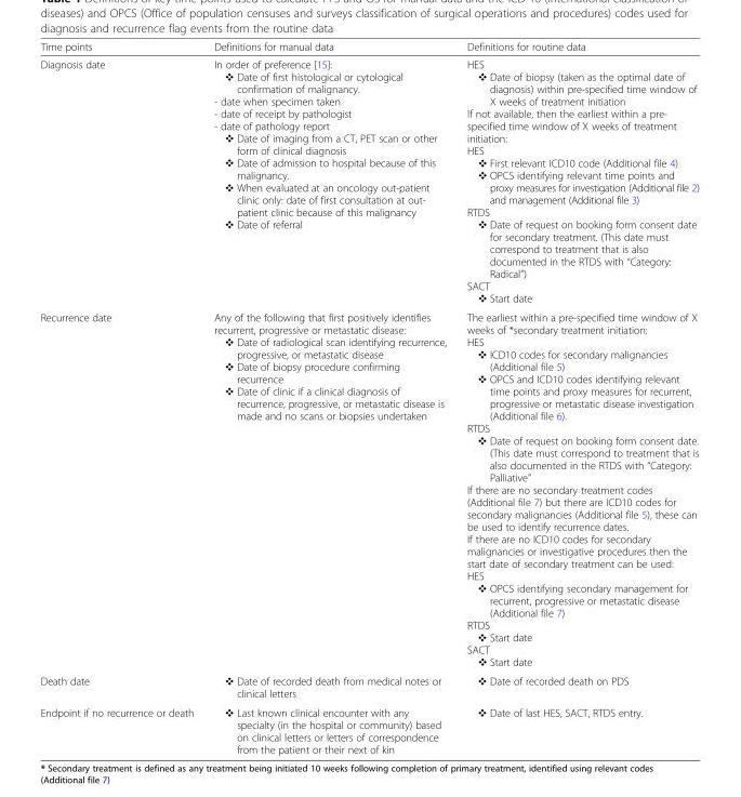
<table><thead><tr><td>Time points</td><td>Definitions for manual data</td><td>Definitions for routine data</td></tr></thead><tbody><tr><td>Diagnosis date</td><td>In order of preference [15]: ❖ Date of first histological or cytological confirmation of malignancy. - date when specimen taken - date of receipt by pathologist - date of pathology report ❖ Date of imaging from a CT, PET scan or other form of clinical diagnosis ❖ Date of admission to hospital because of this malignancy. ❖ When evaluated at an oncology out-patient clinic only: date of first consultation at out- patient clinic because of this malignancy ❖ Date of referral</td><td>HES ❖ Date of biopsy (taken as the optimal date of diagnosis) within pre-specified time window of X weeks of treatment initiation If not available, then the earliest within a pre- specified time window of X weeks of treatment initiation: HES ❖ First relevant ICD10 code (Additional file 4) ❖ OPCS identifying relevant time points and proxy measures for investigation (Additional file 2) and management (Additional file 3) RTDS ❖ Date of request on booking form consent date for secondary treatment. (This date must correspond to treatment that is also documented in the RTDS with “Category: Radical”) SACT ❖ Start date</td></tr><tr><td>Recurrence date</td><td>Any of the following that first positively identifies recurrent, progressive or metastatic disease: ❖ Date of radiological scan identifying recurrence, progressive, or metastatic disease ❖ Date of biopsy procedure confirming recurrence ❖ Date of clinic if a clinical diagnosis of recurrence, progressive, or metastatic disease is made and no scans or biopsies undertaken</td><td>The earliest within a pre-specified time window of X weeks of *secondary treatment initiation: HES ❖ ICD10 codes for secondary malignancies (Additional file 5) ❖ OPCS and ICD10 codes identifying relevant time points and proxy measures for recurrent, progressive or metastatic disease investigation (Additional file 6). RTDS ❖ Date of request on booking form consent date. (This date must correspond to treatment that is also documented in the RTDS with “Category: Palliative” If there are no secondary treatment codes (Additional file 7) but there are ICD10 codes for secondary malignancies (Additional file 5), these can be used to identify recurrence dates. If there are no ICD10 codes for secondary malignancies or investigative procedures then the start date of secondary treatment can be used: HES ❖ OPCS identifying secondary management for recurrent, progressive or metastatic disease (Additional file 7) RTDS ❖ Start date SACT ❖ Start date</td></tr><tr><td>Death date</td><td>❖ Date of recorded death from medical notes or clinical letters</td><td>❖ Date of recorded death on PDS</td></tr><tr><td>Endpoint if no recurrence or death</td><td>❖ Last known clinical encounter with any specialty (in the hospital or community) based on clinical letters or letters of correspondence from the patient or their next of kin</td><td>❖ Date of last HES, SACT, RTDS entry.</td></tr></tbody></table>